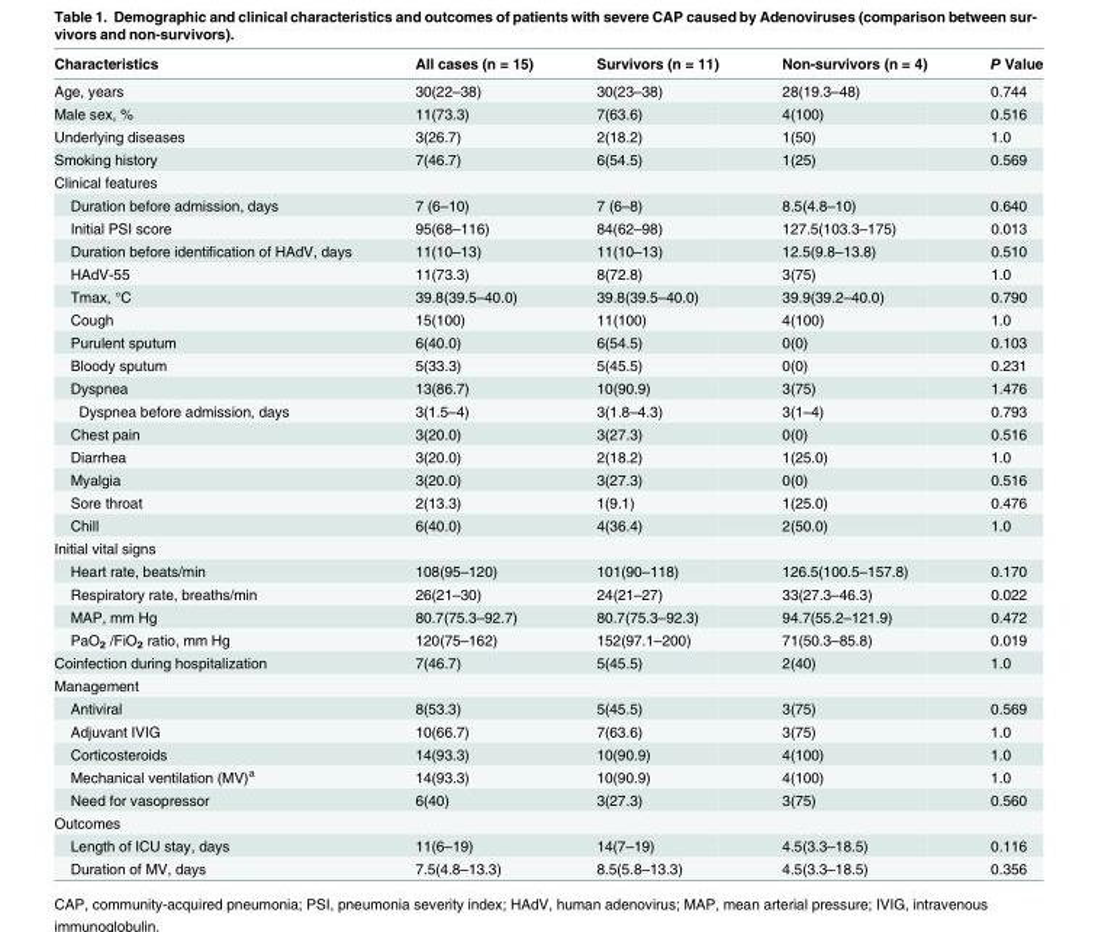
<table><thead><tr><td>Characteristics</td><td>All cases (n = 15)</td><td>Survivors (n = 11)</td><td>Non-survivors (n = 4)</td><td>P Value</td></tr></thead><tbody><tr><td>Age, years</td><td>30(22–38)</td><td>30(23–38)</td><td>28(19.3–48)</td><td>0.744</td></tr><tr><td>Male sex, %</td><td>11(73.3)</td><td>7(63.6)</td><td>4(100)</td><td>0.516</td></tr><tr><td>Underlying diseases</td><td>3(26.7)</td><td>2(18.2)</td><td>1(50)</td><td>1.0</td></tr><tr><td>Smoking history</td><td>7(46.7)</td><td>6(54.5)</td><td>1(25)</td><td>0.569</td></tr><tr><td colspan="5">Clinical features</td></tr><tr><td>Duration before admission, days</td><td>7 (6–10)</td><td>7 (6–8)</td><td>8.5(4.8–10)</td><td>0.640</td></tr><tr><td>Initial PSI score</td><td>95(68–116)</td><td>84(62–98)</td><td>127.5(103.3–175)</td><td>0.013</td></tr><tr><td>Duration before identification of HAdV, days</td><td>11(10–13)</td><td>11(10–13)</td><td>12.5(9.8–13.8)</td><td>0.510</td></tr><tr><td>HAdV-55</td><td>11(73.3)</td><td>8(72.8)</td><td>3(75)</td><td>1.0</td></tr><tr><td>Tmax, °C</td><td>39.8(39.5–40.0)</td><td>39.8(39.5–40.0)</td><td>39.9(39.2–40.0)</td><td>0.790</td></tr><tr><td>Cough</td><td>15(100)</td><td>11(100)</td><td>4(100)</td><td>1.0</td></tr><tr><td>Purulent sputum</td><td>6(40.0)</td><td>6(54.5)</td><td>0(0)</td><td>0.103</td></tr><tr><td>Bloody sputum</td><td>5(33.3)</td><td>5(45.5)</td><td>0(0)</td><td>0.231</td></tr><tr><td>Dyspnea</td><td>13(86.7)</td><td>10(90.9)</td><td>3(75)</td><td>1.476</td></tr><tr><td>Dyspnea before admission, days</td><td>3(1.5–4)</td><td>3(1.8–4.3)</td><td>3(1–4)</td><td>0.793</td></tr><tr><td>Chest pain</td><td>3(20.0)</td><td>3(27.3)</td><td>0(0)</td><td>0.516</td></tr><tr><td>Diarrhea</td><td>3(20.0)</td><td>2(18.2)</td><td>1(25.0)</td><td>1.0</td></tr><tr><td>Myalgia</td><td>3(20.0)</td><td>3(27.3)</td><td>0(0)</td><td>0.516</td></tr><tr><td>Sore throat</td><td>2(13.3)</td><td>1(9.1)</td><td>1(25.0)</td><td>0.476</td></tr><tr><td>Chill</td><td>6(40.0)</td><td>4(36.4)</td><td>2(50.0)</td><td>1.0</td></tr><tr><td colspan="5">Initial vital signs</td></tr><tr><td>Heart rate, beats/min</td><td>108(95–120)</td><td>101(90–118)</td><td>126.5(100.5–157.8)</td><td>0.170</td></tr><tr><td>Respiratory rate, breaths/min</td><td>26(21–30)</td><td>24(21–27)</td><td>33(27.3–46.3)</td><td>0.022</td></tr><tr><td>MAP, mm Hg</td><td>80.7(75.3–92.7)</td><td>80.7(75.3–92.3)</td><td>94.7(55.2–121.9)</td><td>0.472</td></tr><tr><td>PaO<sub>2</sub> /FiO<sub>2</sub> ratio, mm Hg</td><td>120(75–162)</td><td>152(97.1–200)</td><td>71(50.3–85.8)</td><td>0.019</td></tr><tr><td>Coinfection during hospitalization</td><td>7(46.7)</td><td>5(45.5)</td><td>2(40)</td><td>1.0</td></tr><tr><td colspan="5">Management</td></tr><tr><td>Antiviral</td><td>8(53.3)</td><td>5(45.5)</td><td>3(75)</td><td>0.569</td></tr><tr><td>Adjuvant IVIG</td><td>10(66.7)</td><td>7(63.6)</td><td>3(75)</td><td>1.0</td></tr><tr><td>Corticosteroids</td><td>14(93.3)</td><td>10(90.9)</td><td>4(100)</td><td>1.0</td></tr><tr><td>Mechanical ventilation (MV)<sup>a</sup></td><td>14(93.3)</td><td>10(90.9)</td><td>4(100)</td><td>1.0</td></tr><tr><td>Need for vasopressor</td><td>6(40)</td><td>3(27.3)</td><td>3(75)</td><td>0.560</td></tr><tr><td colspan="5">Outcomes</td></tr><tr><td>Length of ICU stay, days</td><td>11(6–19)</td><td>14(7–19)</td><td>4.5(3.3–18.5)</td><td>0.116</td></tr><tr><td>Duration of MV, days</td><td>7.5(4.8–13.3)</td><td>8.5(5.8–13.3)</td><td>4.5(3.3–18.5)</td><td>0.356</td></tr></tbody></table>